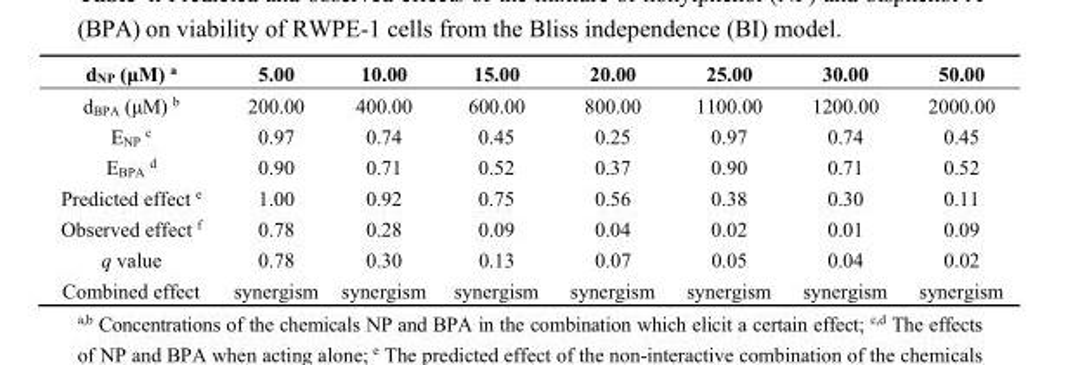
<table><thead><tr><td>d<sub>NP</sub> (μM) <sup>a</sup></td><td>5.00</td><td>10.00</td><td>15.00</td><td>20.00</td><td>25.00</td><td>30.00</td><td>50.00</td></tr></thead><tbody><tr><td>d<sub>BPA</sub> (μM) <sup>b</sup></td><td>200.00</td><td>400.00</td><td>600.00</td><td>800.00</td><td>1100.00</td><td>1200.00</td><td>2000.00</td></tr><tr><td>E<sub>NP</sub> <sup>c</sup></td><td>0.97</td><td>0.74</td><td>0.45</td><td>0.25</td><td>0.97</td><td>0.74</td><td>0.45</td></tr><tr><td>E<sub>BPA</sub> <sup>d</sup></td><td>0.90</td><td>0.71</td><td>0.52</td><td>0.37</td><td>0.90</td><td>0.71</td><td>0.52</td></tr><tr><td>Predicted effect <sup>e</sup></td><td>1.00</td><td>0.92</td><td>0.75</td><td>0.56</td><td>0.38</td><td>0.30</td><td>0.11</td></tr><tr><td>Observed effect <sup>f</sup></td><td>0.78</td><td>0.28</td><td>0.09</td><td>0.04</td><td>0.02</td><td>0.01</td><td>0.09</td></tr><tr><td>q value</td><td>0.78</td><td>0.30</td><td>0.13</td><td>0.07</td><td>0.05</td><td>0.04</td><td>0.02</td></tr><tr><td>Combined effect</td><td>synergism</td><td>synergism</td><td>synergism</td><td>synergism</td><td>synergism</td><td>synergism</td><td>synergism</td></tr></tbody></table>